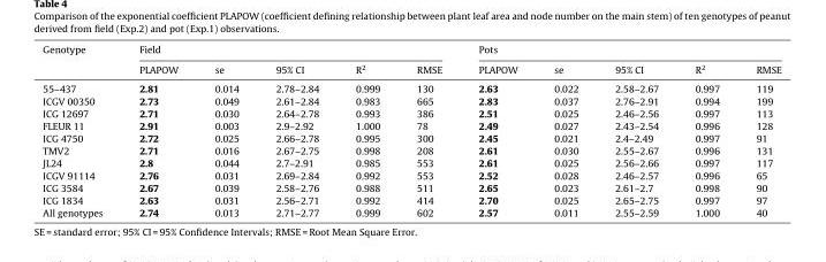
<table><thead><tr><td rowspan="2">Genotype</td><td colspan="5">Field</td><td colspan="5">Pots</td></tr><tr><td>PLAPOW</td><td>se</td><td>95% CI</td><td>R<sup>2</sup></td><td>RMSE</td><td>PLAPOW</td><td>se</td><td>95% CI</td><td>R<sup>2</sup></td><td>RMSE</td></tr></thead><tbody><tr><td>55–437</td><td>2.81</td><td>0.014</td><td>2.78–2.84</td><td>0.999</td><td>130</td><td>2.63</td><td>0.022</td><td>2.58–2.67</td><td>0.997</td><td>119</td></tr><tr><td>ICGV 00350</td><td>2.73</td><td>0.049</td><td>2.61–2.84</td><td>0.983</td><td>665</td><td>2.83</td><td>0.037</td><td>2.76–2.91</td><td>0.994</td><td>199</td></tr><tr><td>ICG 12697</td><td>2.71</td><td>0.030</td><td>2.64–2.78</td><td>0.993</td><td>386</td><td>2.51</td><td>0.025</td><td>2.46–2.56</td><td>0.997</td><td>113</td></tr><tr><td>FLEUR 11</td><td>2.91</td><td>0.003</td><td>2.9–2.92</td><td>1.000</td><td>78</td><td>2.49</td><td>0.027</td><td>2.43–2.54</td><td>0.996</td><td>128</td></tr><tr><td>ICG 4750</td><td>2.72</td><td>0.025</td><td>2.66–2.78</td><td>0.995</td><td>300</td><td>2.45</td><td>0.021</td><td>2.4–2.49</td><td>0.997</td><td>91</td></tr><tr><td>TMV2</td><td>2.71</td><td>0.016</td><td>2.67–2.75</td><td>0.998</td><td>208</td><td>2.61</td><td>0.030</td><td>2.55–2.67</td><td>0.996</td><td>131</td></tr><tr><td>JL24</td><td>2.8</td><td>0.044</td><td>2.7–2.91</td><td>0.985</td><td>553</td><td>2.61</td><td>0.025</td><td>2.56–2.66</td><td>0.997</td><td>117</td></tr><tr><td>ICGV 91114</td><td>2.76</td><td>0.031</td><td>2.69–2.84</td><td>0.992</td><td>553</td><td>2.52</td><td>0.028</td><td>2.46–2.57</td><td>0.996</td><td>65</td></tr><tr><td>ICG 3584</td><td>2.67</td><td>0.039</td><td>2.58–2.76</td><td>0.988</td><td>511</td><td>2.65</td><td>0.023</td><td>2.61–2.7</td><td>0.998</td><td>90</td></tr><tr><td>ICG 1834</td><td>2.63</td><td>0.031</td><td>2.56–2.71</td><td>0.992</td><td>414</td><td>2.70</td><td>0.025</td><td>2.65–2.75</td><td>0.997</td><td>97</td></tr><tr><td>All genotypes</td><td>2.74</td><td>0.013</td><td>2.71–2.77</td><td>0.999</td><td>602</td><td>2.57</td><td>0.011</td><td>2.55–2.59</td><td>1.000</td><td>40</td></tr></tbody></table>